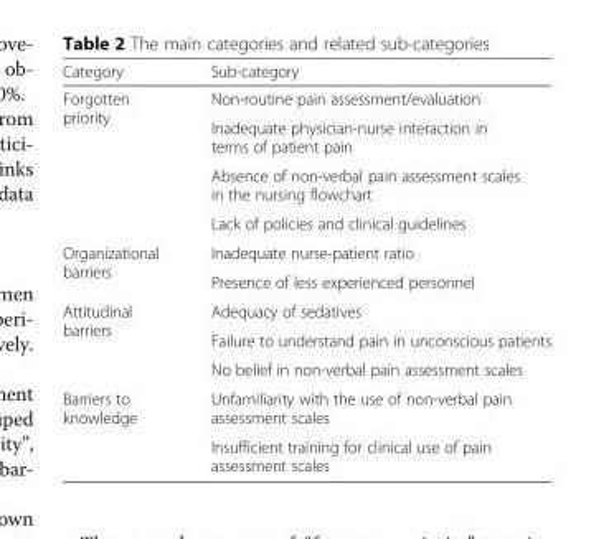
<table><thead><tr><td>Category</td><td>Sub-category</td></tr></thead><tbody><tr><td rowspan="4">Forgotten priority</td><td>Non-routine pain assessment/evaluation</td></tr><tr><td>Inadequate physician-nurse interaction in terms of patient pain</td></tr><tr><td>Absence of non-verbal pain assessment scales in the nursing flowchart</td></tr><tr><td>Lack of policies and clinical guidelines</td></tr><tr><td rowspan="2">Organizational barriers</td><td>Inadequate nurse-patient ratio</td></tr><tr><td>Presence of less experienced personnel</td></tr><tr><td rowspan="3">Attitudinal barriers</td><td>Adequacy of sedatives</td></tr><tr><td>Failure to understand pain in unconscious patients</td></tr><tr><td>No belief in non-verbal pain assessment scales</td></tr><tr><td rowspan="2">Barriers to knowledge</td><td>Unfamiliarity with the use of non-verbal pain assessment scales</td></tr><tr><td>Insufficient training for clinical use of pain assessment scales</td></tr></tbody></table>